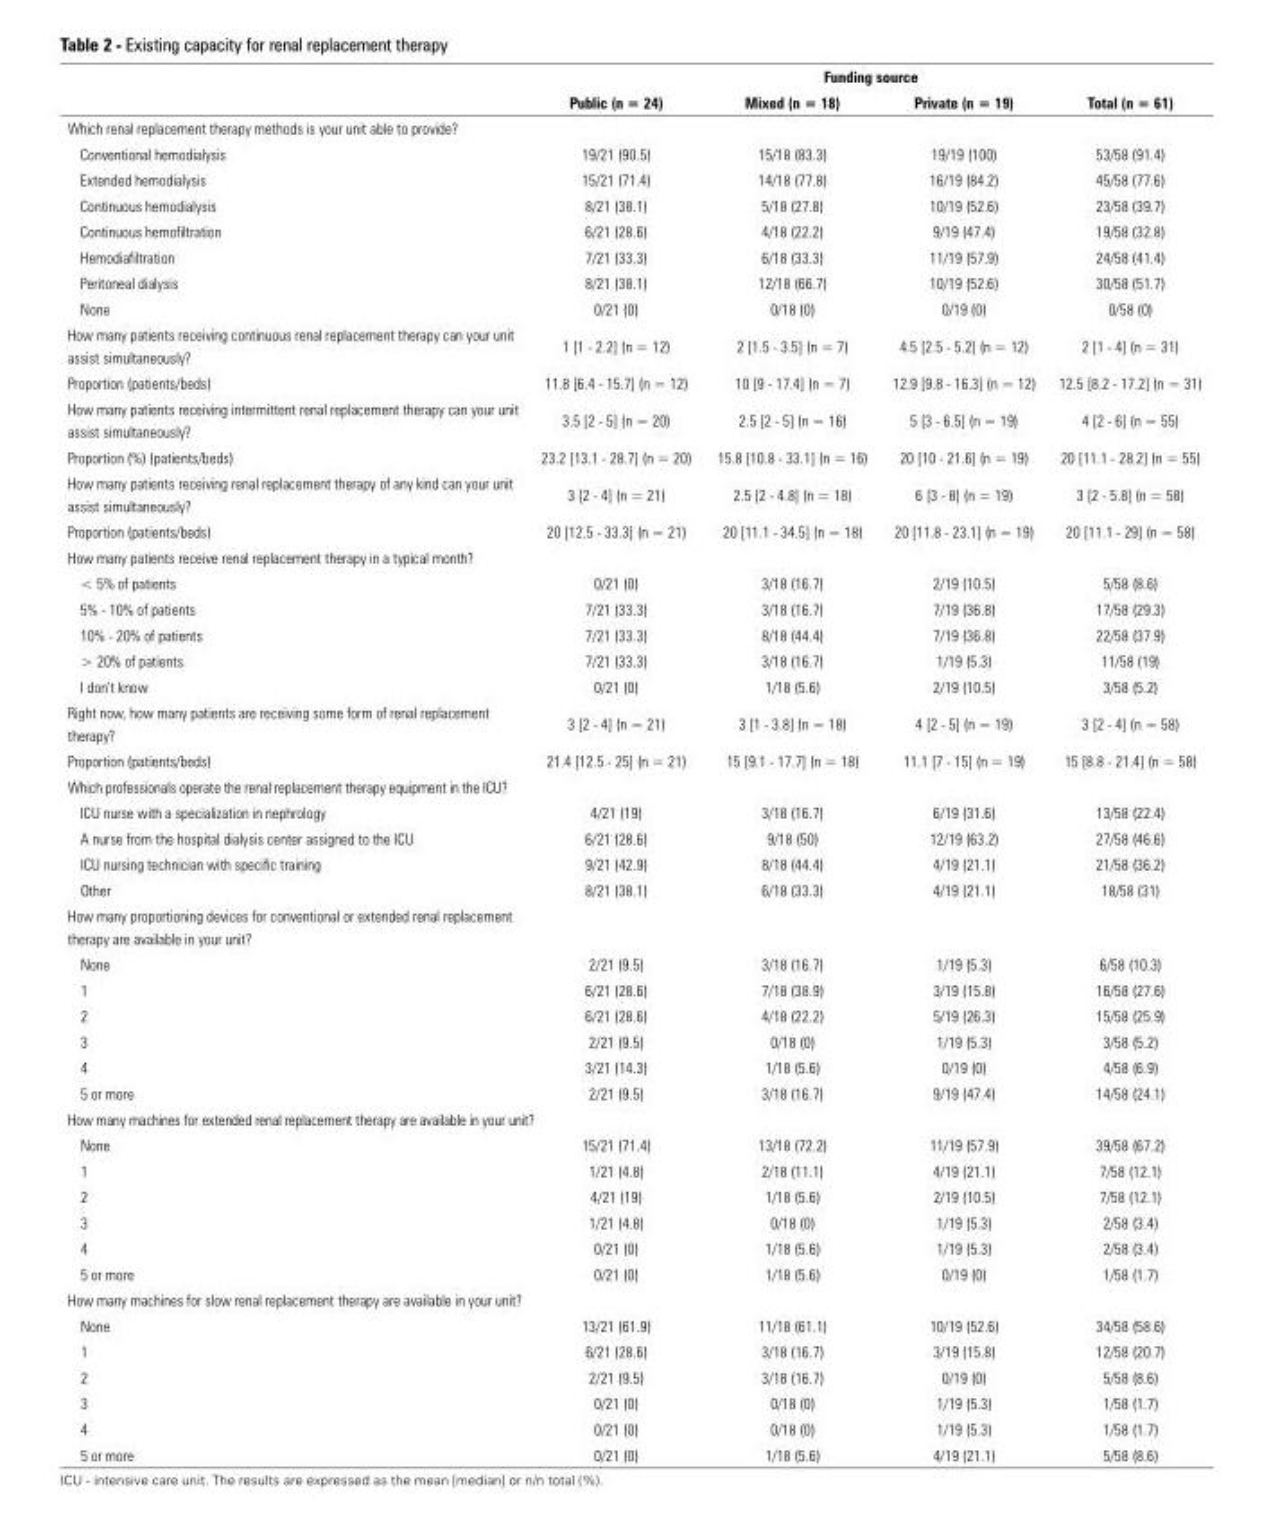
<table><thead><tr><td rowspan="2"></td><td colspan="4">Funding source</td></tr><tr><td>Public (n = 24)</td><td>Mixed (n = 18)</td><td>Private (n = 19)</td><td>Total (n = 61)</td></tr></thead><tbody><tr><td colspan="5">Which renal replacement therapy methods is your unit able to provide?</td></tr><tr><td>Conventional hemodialysis</td><td>19/21 (90.5)</td><td>15/18 (83.3)</td><td>19/19 (100)</td><td>53/58 (91.4)</td></tr><tr><td>Extended hemodialysis</td><td>15/21 (71.4)</td><td>14/18 (77.8)</td><td>16/19 (84.2)</td><td>45/58 (77.6)</td></tr><tr><td>Continuous hemodialysis</td><td>8/21 (38.1)</td><td>5/18 (27.8)</td><td>10/19 (52.6)</td><td>23/58 (39.7)</td></tr><tr><td>Continuous hemofiltration</td><td>6/21 (28.6)</td><td>4/18 (22.2)</td><td>9/19 (47.4)</td><td>19/58 (32.8)</td></tr><tr><td>Hemodiafiltration</td><td>7/21 (33.3)</td><td>6/18 (33.3)</td><td>11/19 (57.9)</td><td>24/58 (41.4)</td></tr><tr><td>Peritoneal dialysis</td><td>8/21 (38.1)</td><td>12/18 (66.7)</td><td>10/19 (52.6)</td><td>30/58 (51.7)</td></tr><tr><td>None</td><td>0/21 (0)</td><td>0/18 (0)</td><td>0/19 (0)</td><td>0/58 (0)</td></tr><tr><td>How many patients receiving continuous renal replacement therapy can your unit assist simultaneously?</td><td>1 [1 - 2.2] (n = 12)</td><td>2 [1.5 - 3.5] (n = 7)</td><td>4.5 [2.5 - 5.2] (n = 12)</td><td>2 [1 - 4] (n = 31)</td></tr><tr><td>Proportion (patients/beds)</td><td>11.8 [6.4 - 15.7] (n = 12)</td><td>10 [9 - 17.4] (n = 7)</td><td>12.9 [9.8 - 16.3] (n = 12)</td><td>12.5 [8.2 - 17.2] (n = 31)</td></tr><tr><td>How many patients receiving intermittent renal replacement therapy can your unit assist simultaneously?</td><td>3.5 [2 - 5] (n = 20)</td><td>2.5 [2 - 5] (n = 16)</td><td>5 [3 - 6.5] (n = 19)</td><td>4 [2 - 6] (n = 55)</td></tr><tr><td>Proportion (%) (patients/beds)</td><td>23.2 [13.1 - 28.7] (n = 20)</td><td>15.8 [10.8 - 33.1] (n = 16)</td><td>20 [10 - 21.6] (n = 19)</td><td>20 [11.1 - 28.2] (n = 55)</td></tr><tr><td>How many patients receiving renal replacement therapy of any kind can your unit assist simultaneously?</td><td>3 [2 - 4] (n = 21)</td><td>2.5 [2 - 4.8] (n = 18)</td><td>6 [3 - 8] (n = 19)</td><td>3 [2 - 5.8] (n = 58)</td></tr><tr><td>Proportion (patients/beds)</td><td>20 [12.5 - 33.3] (n = 21)</td><td>20 [11.1 - 34.5] (n = 18)</td><td>20 [11.8 - 23.1] (n = 19)</td><td>20 [11.1 - 29] (n = 58)</td></tr><tr><td colspan="5">How many patients receive renal replacement therapy in a typical month?</td></tr><tr><td>&lt; 5% of patients</td><td>0/21 (0)</td><td>3/18 (16.7)</td><td>2/19 (10.5)</td><td>5/58 (8.6)</td></tr><tr><td>5% - 10% of patients</td><td>7/21 (33.3)</td><td>3/18 (16.7)</td><td>7/19 (36.8)</td><td>17/58 (29.3)</td></tr><tr><td>10% - 20% of patients</td><td>7/21 (33.3)</td><td>8/18 (44.4)</td><td>7/19 (36.8)</td><td>22/58 (37.9)</td></tr><tr><td>&gt; 20% of patients</td><td>7/21 (33.3)</td><td>3/18 (16.7)</td><td>1/19 (5.3)</td><td>11/58 (19)</td></tr><tr><td>I don’t know</td><td>0/21 (0)</td><td>1/18 (5.6)</td><td>2/19 (10.5)</td><td>3/58 (5.2)</td></tr><tr><td>Right now, how many patients are receiving some form of renal replacement therapy?</td><td>3 [2 - 4] (n = 21)</td><td>3 [1 - 3.8] (n = 18)</td><td>4 [2 - 5] (n = 19)</td><td>3 [2 - 4] (n = 58)</td></tr><tr><td>Proportion (patients/beds)</td><td>21.4 [12.5 - 25] (n = 21)</td><td>15 [9.1 - 17.7] (n = 18)</td><td>11.1 [7 - 15] (n = 19)</td><td>15 [8.8 - 21.4] (n = 58)</td></tr><tr><td colspan="5">Which professionals operate the renal replacement therapy equipment in the ICU?</td></tr><tr><td>ICU nurse with a specialization in nephrology</td><td>4/21 (19)</td><td>3/18 (16.7)</td><td>6/19 (31.6)</td><td>13/58 (22.4)</td></tr><tr><td>A nurse from the hospital dialysis center assigned to the ICU</td><td>6/21 (28.6)</td><td>9/18 (50)</td><td>12/19 (63.2)</td><td>27/58 (46.6)</td></tr><tr><td>ICU nursing technician with specific training</td><td>9/21 (42.9)</td><td>8/18 (44.4)</td><td>4/19 (21.1)</td><td>21/58 (36.2)</td></tr><tr><td>Other</td><td>8/21 (38.1)</td><td>6/18 (33.3)</td><td>4/19 (21.1)</td><td>18/58 (31)</td></tr><tr><td colspan="5">How many proportioning devices for conventional or extended renal replacement therapy are available in your unit?</td></tr><tr><td>None</td><td>2/21 (9.5)</td><td>3/18 (16.7)</td><td>1/19 (5.3)</td><td>6/58 (10.3)</td></tr><tr><td>1</td><td>6/21 (28.6)</td><td>7/18 (38.9)</td><td>3/19 (15.8)</td><td>16/58 (27.6)</td></tr><tr><td>2</td><td>6/21 (28.6)</td><td>4/18 (22.2)</td><td>5/19 (26.3)</td><td>15/58 (25.9)</td></tr><tr><td>3</td><td>2/21 (9.5)</td><td>0/18 (0)</td><td>1/19 (5.3)</td><td>3/58 (5.2)</td></tr><tr><td>4</td><td>3/21 (14.3)</td><td>1/18 (5.6)</td><td>0/19 (0)</td><td>4/58 (6.9)</td></tr><tr><td>5 or more</td><td>2/21 (9.5)</td><td>3/18 (16.7)</td><td>9/19 (47.4)</td><td>14/58 (24.1)</td></tr><tr><td colspan="5">How many machines for extended renal replacement therapy are available in your unit?</td></tr><tr><td>None</td><td>15/21 (71.4)</td><td>13/18 (72.2)</td><td>11/19 (57.9)</td><td>39/58 (67.2)</td></tr><tr><td>1</td><td>1/21 (4.8)</td><td>2/18 (11.1)</td><td>4/19 (21.1)</td><td>7/58 (12.1)</td></tr><tr><td>2</td><td>4/21 (19)</td><td>1/18 (5.6)</td><td>2/19 (10.5)</td><td>7/58 (12.1)</td></tr><tr><td>3</td><td>1/21 (4.8)</td><td>0/18 (0)</td><td>1/19 (5.3)</td><td>2/58 (3.4)</td></tr><tr><td>4</td><td>0/21 (0)</td><td>1/18 (5.6)</td><td>1/19 (5.3)</td><td>2/58 (3.4)</td></tr><tr><td>5 or more</td><td>0/21 (0)</td><td>1/18 (5.6)</td><td>0/19 (0)</td><td>1/58 (1.7)</td></tr><tr><td colspan="5">How many machines for slow renal replacement therapy are available in your unit?</td></tr><tr><td>None</td><td>13/21 (61.9)</td><td>11/18 (61.1)</td><td>10/19 (52.6)</td><td>34/58 (58.6)</td></tr><tr><td>1</td><td>6/21 (28.6)</td><td>3/18 (16.7)</td><td>3/19 (15.8)</td><td>12/58 (20.7)</td></tr><tr><td>2</td><td>2/21 (9.5)</td><td>3/18 (16.7)</td><td>0/19 (0)</td><td>5/58 (8.6)</td></tr><tr><td>3</td><td>0/21 (0)</td><td>0/18 (0)</td><td>1/19 (5.3)</td><td>1/58 (1.7)</td></tr><tr><td>4</td><td>0/21 (0)</td><td>0/18 (0)</td><td>1/19 (5.3)</td><td>1/58 (1.7)</td></tr><tr><td>5 or more</td><td>0/21 (0)</td><td>1/18 (5.6)</td><td>4/19 (21.1)</td><td>5/58 (8.6)</td></tr></tbody></table>